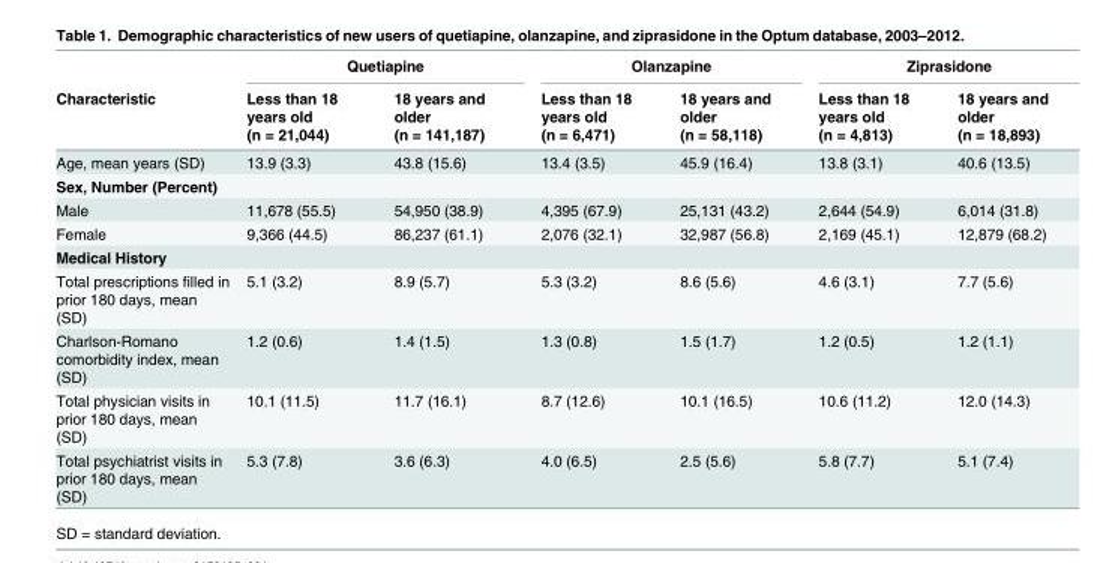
<table><thead><tr><td rowspan="2">Characteristic</td><td colspan="2">Quetiapine</td><td colspan="2">Olanzapine</td><td colspan="2">Ziprasidone</td></tr><tr><td>Less than 18 years old (n = 21,044)</td><td>18 years and older (n = 141,187)</td><td>Less than 18 years old (n = 6,471)</td><td>18 years and older (n = 58,118)</td><td>Less than 18 years old (n = 4,813)</td><td>18 years and older (n = 18,893)</td></tr></thead><tbody><tr><td>Age, mean years (SD)</td><td>13.9 (3.3)</td><td>43.8 (15.6)</td><td>13.4 (3.5)</td><td>45.9 (16.4)</td><td>13.8 (3.1)</td><td>40.6 (13.5)</td></tr><tr><td colspan="7">Sex, Number (Percent)</td></tr><tr><td>Male</td><td>11,678 (55.5)</td><td>54,950 (38.9)</td><td>4,395 (67.9)</td><td>25,131 (43.2)</td><td>2,644 (54.9)</td><td>6,014 (31.8)</td></tr><tr><td>Female</td><td>9,366 (44.5)</td><td>86,237 (61.1)</td><td>2,076 (32.1)</td><td>32,987 (56.8)</td><td>2,169 (45.1)</td><td>12,879 (68.2)</td></tr><tr><td colspan="7">Medical History</td></tr><tr><td>Total prescriptions filled in prior 180 days, mean (SD)</td><td>5.1 (3.2)</td><td>8.9 (5.7)</td><td>5.3 (3.2)</td><td>8.6 (5.6)</td><td>4.6 (3.1)</td><td>7.7 (5.6)</td></tr><tr><td>Charlson-Romano comorbidity index, mean (SD)</td><td>1.2 (0.6)</td><td>1.4 (1.5)</td><td>1.3 (0.8)</td><td>1.5 (1.7)</td><td>1.2 (0.5)</td><td>1.2 (1.1)</td></tr><tr><td>Total physician visits in prior 180 days, mean (SD)</td><td>10.1 (11.5)</td><td>11.7 (16.1)</td><td>8.7 (12.6)</td><td>10.1 (16.5)</td><td>10.6 (11.2)</td><td>12.0 (14.3)</td></tr><tr><td>Total psychiatrist visits in prior 180 days, mean (SD)</td><td>5.3 (7.8)</td><td>3.6 (6.3)</td><td>4.0 (6.5)</td><td>2.5 (5.6)</td><td>5.8 (7.7)</td><td>5.1 (7.4)</td></tr></tbody></table>